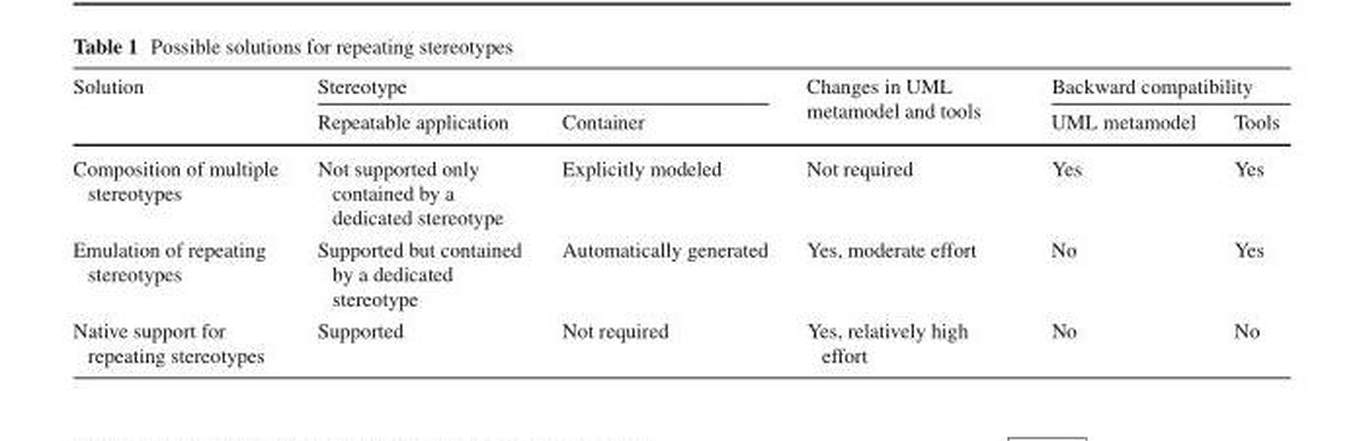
<table><thead><tr><td rowspan="2">Solution</td><td colspan="2">Stereotype</td><td rowspan="2">Changes in UML metamodel and tools</td><td colspan="2">Backward compatibility</td></tr><tr><td>Repeatable application</td><td>Container</td><td>UML metamodel</td><td>Tools</td></tr></thead><tbody><tr><td>Composition of multiple stereotypes</td><td>Not supported only contained by a dedicated stereotype</td><td>Explicitly modeled</td><td>Not required</td><td>Yes</td><td>Yes</td></tr><tr><td>Emulation of repeating stereotypes</td><td>Supported but contained by a dedicated stereotype</td><td>Automatically generated</td><td>Yes, moderate effort</td><td>No</td><td>Yes</td></tr><tr><td>Native support for repeating stereotypes</td><td>Supported</td><td>Not required</td><td>Yes, relatively high effort</td><td>No</td><td>No</td></tr></tbody></table>